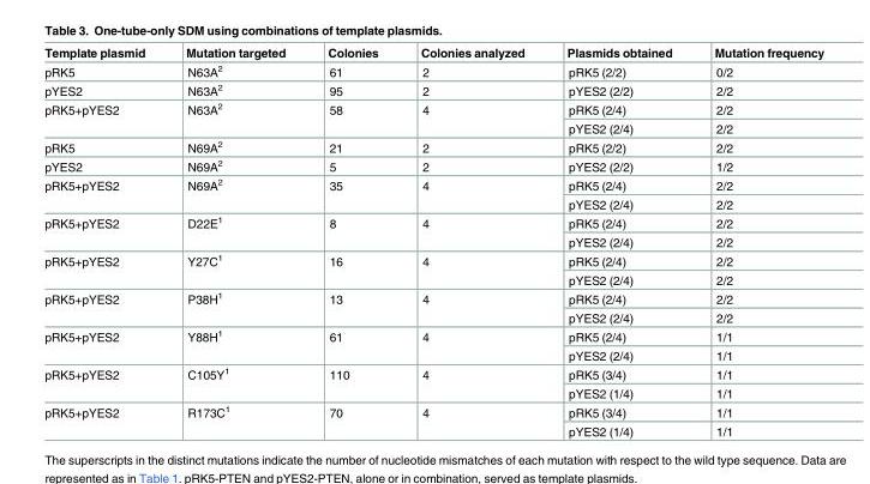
<table><thead><tr><td>Template plasmid</td><td>Mutation targeted</td><td>Colonies</td><td>Colonies analyzed</td><td>Plasmids obtained</td><td>Mutation frequency</td></tr></thead><tbody><tr><td>pRK5</td><td>N63A<sup>2</sup></td><td>61</td><td>2</td><td>pRK5 (2/2)</td><td>0/2</td></tr><tr><td>pYES2</td><td>N63A<sup>2</sup></td><td>95</td><td>2</td><td>pYES2 (2/2)</td><td>2/2</td></tr><tr><td rowspan="2">pRK5+pYES2</td><td rowspan="2">N63A<sup>2</sup></td><td rowspan="2">58</td><td rowspan="2">4</td><td>pRK5 (2/4)</td><td>2/2</td></tr><tr><td>pYES2 (2/4)</td><td>2/2</td></tr><tr><td>pRK5</td><td>N69A<sup>2</sup></td><td>21</td><td>2</td><td>pRK5 (2/2)</td><td>2/2</td></tr><tr><td>pYES2</td><td>N69A<sup>2</sup></td><td>5</td><td>2</td><td>pYES2 (2/2)</td><td>1/2</td></tr><tr><td rowspan="2">pRK5+pYES2</td><td rowspan="2">N69A<sup>2</sup></td><td rowspan="2">35</td><td rowspan="2">4</td><td>pRK5 (2/4)</td><td>2/2</td></tr><tr><td>pYES2 (2/4)</td><td>2/2</td></tr><tr><td rowspan="2">pRK5+pYES2</td><td rowspan="2">D22E<sup>1</sup></td><td rowspan="2">8</td><td rowspan="2">4</td><td>pRK5 (2/4)</td><td>2/2</td></tr><tr><td>pYES2 (2/4)</td><td>2/2</td></tr><tr><td rowspan="2">pRK5+pYES2</td><td rowspan="2">Y27C<sup>1</sup></td><td rowspan="2">16</td><td rowspan="2">4</td><td>pRK5 (2/4)</td><td>2/2</td></tr><tr><td>pYES2 (2/4)</td><td>2/2</td></tr><tr><td rowspan="2">pRK5+pYES2</td><td rowspan="2">P38H<sup>1</sup></td><td rowspan="2">13</td><td rowspan="2">4</td><td>pRK5 (2/4)</td><td>2/2</td></tr><tr><td>pYES2 (2/4)</td><td>2/2</td></tr><tr><td rowspan="2">pRK5+pYES2</td><td rowspan="2">Y88H<sup>1</sup></td><td rowspan="2">61</td><td rowspan="2">4</td><td>pRK5 (2/4)</td><td>1/1</td></tr><tr><td>pYES2 (2/4)</td><td>1/1</td></tr><tr><td rowspan="2">pRK5+pYES2</td><td rowspan="2">C105Y<sup>1</sup></td><td rowspan="2">110</td><td rowspan="2">4</td><td>pRK5 (3/4)</td><td>1/1</td></tr><tr><td>pYES2 (1/4)</td><td>1/1</td></tr><tr><td rowspan="2">pRK5+pYES2</td><td rowspan="2">R173C<sup>1</sup></td><td rowspan="2">70</td><td rowspan="2">4</td><td>pRK5 (3/4)</td><td>1/1</td></tr><tr><td>pYES2 (1/4)</td><td>1/1</td></tr></tbody></table>